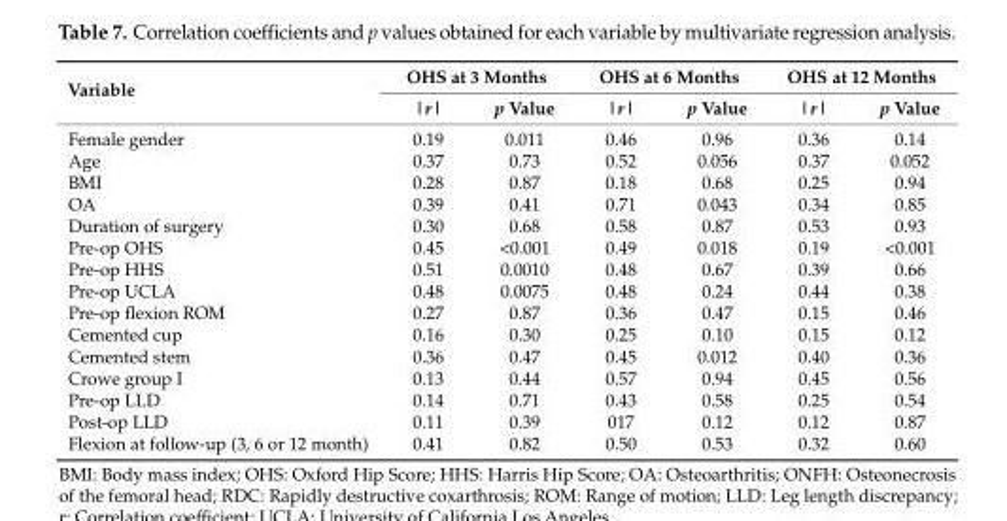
<table><thead><tr><td rowspan="2">Variable</td><td colspan="2">OHS at 3 Months</td><td colspan="2">OHS at 6 Months</td><td colspan="2">OHS at 12 Months</td></tr><tr><td>|r|</td><td>p Value</td><td>|r|</td><td>p Value</td><td>|r|</td><td>p Value</td></tr></thead><tbody><tr><td>Female gender</td><td>0.19</td><td>0.011</td><td>0.46</td><td>0.96</td><td>0.36</td><td>0.14</td></tr><tr><td>Age</td><td>0.37</td><td>0.73</td><td>0.52</td><td>0.056</td><td>0.37</td><td>0.052</td></tr><tr><td>BMI</td><td>0.28</td><td>0.87</td><td>0.18</td><td>0.68</td><td>0.25</td><td>0.94</td></tr><tr><td>OA</td><td>0.39</td><td>0.41</td><td>0.71</td><td>0.043</td><td>0.34</td><td>0.85</td></tr><tr><td>Duration of surgery</td><td>0.30</td><td>0.68</td><td>0.58</td><td>0.87</td><td>0.53</td><td>0.93</td></tr><tr><td>Pre-op OHS</td><td>0.45</td><td>&lt;0.001</td><td>0.49</td><td>0.018</td><td>0.19</td><td>&lt;0.001</td></tr><tr><td>Pre-op HHS</td><td>0.51</td><td>0.0010</td><td>0.48</td><td>0.67</td><td>0.39</td><td>0.66</td></tr><tr><td>Pre-op UCLA</td><td>0.48</td><td>0.0075</td><td>0.48</td><td>0.24</td><td>0.44</td><td>0.38</td></tr><tr><td>Pre-op flexion ROM</td><td>0.27</td><td>0.87</td><td>0.36</td><td>0.47</td><td>0.15</td><td>0.46</td></tr><tr><td>Cemented cup</td><td>0.16</td><td>0.30</td><td>0.25</td><td>0.10</td><td>0.15</td><td>0.12</td></tr><tr><td>Cemented stem</td><td>0.36</td><td>0.47</td><td>0.45</td><td>0.012</td><td>0.40</td><td>0.36</td></tr><tr><td>Crowe group I</td><td>0.13</td><td>0.44</td><td>0.57</td><td>0.94</td><td>0.45</td><td>0.56</td></tr><tr><td>Pre-op LLD</td><td>0.14</td><td>0.71</td><td>0.43</td><td>0.58</td><td>0.25</td><td>0.54</td></tr><tr><td>Post-op LLD</td><td>0.11</td><td>0.39</td><td>017</td><td>0.12</td><td>0.12</td><td>0.87</td></tr><tr><td>Flexion at follow-up (3, 6 or 12 month)</td><td>0.41</td><td>0.82</td><td>0.50</td><td>0.53</td><td>0.32</td><td>0.60</td></tr></tbody></table>